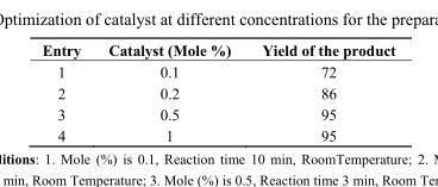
<table><thead><tr><td>Entry</td><td>Catalyst (Mole %)</td><td>Yield of the product</td></tr></thead><tbody><tr><td>1</td><td>0.1</td><td>72</td></tr><tr><td>2</td><td>0.2</td><td>86</td></tr><tr><td>3</td><td>0.5</td><td>95</td></tr><tr><td>4</td><td>1</td><td>95</td></tr></tbody></table>